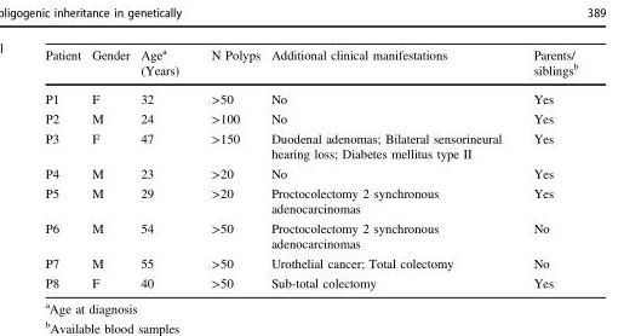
<table><thead><tr><td>Patient</td><td>Gender</td><td>Agea (Years)</td><td>N Polyps</td><td>Additional clinical manifestations</td><td>Parents/ siblingsb</td></tr></thead><tbody><tr><td>P1</td><td>F</td><td>32</td><td>&gt;50</td><td>No</td><td>Yes</td></tr><tr><td>P2</td><td>M</td><td>24</td><td>&gt;100</td><td>No</td><td>Yes</td></tr><tr><td>P3</td><td>F</td><td>47</td><td>&gt;150</td><td>Duodenal adenomas; Bilateral sensorineural hearing loss; Diabetes mellitus type II</td><td>Yes</td></tr><tr><td>P4</td><td>M</td><td>23</td><td>&gt;20</td><td>No</td><td>Yes</td></tr><tr><td>P5</td><td>M</td><td>29</td><td>&gt;20</td><td>Proctocolectomy 2 synchronous adenocarcinomas</td><td>Yes</td></tr><tr><td>P6</td><td>M</td><td>54</td><td>&gt;50</td><td>Proctocolectomy 2 synchronous adenocarcinomas</td><td>No</td></tr><tr><td>P7</td><td>M</td><td>55</td><td>&gt;50</td><td>Urothelial cancer; Total colectomy</td><td>No</td></tr><tr><td>P8</td><td>F</td><td>40</td><td>&gt;50</td><td>Sub-total colectomy</td><td>Yes</td></tr></tbody></table>